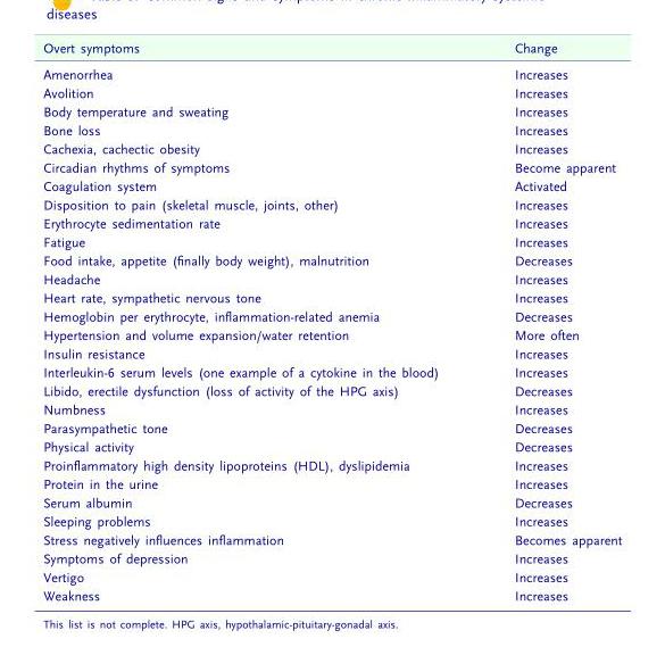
<table><thead><tr><td>Overt symptoms</td><td>Change</td></tr></thead><tbody><tr><td>Amenorrhea</td><td>Increases</td></tr><tr><td>Avolition</td><td>Increases</td></tr><tr><td>Body temperature and sweating</td><td>Increases</td></tr><tr><td>Bone loss</td><td>Increases</td></tr><tr><td>Cachexia, cachectic obesity</td><td>Increases</td></tr><tr><td>Circadian rhythms of symptoms</td><td>Become apparent</td></tr><tr><td>Coagulation system</td><td>Activated</td></tr><tr><td>Disposition to pain (skeletal muscle, joints, other)</td><td>Increases</td></tr><tr><td>Erythrocyte sedimentation rate</td><td>Increases</td></tr><tr><td>Fatigue</td><td>Increases</td></tr><tr><td>Food intake, appetite (finally body weight), malnutrition</td><td>Decreases</td></tr><tr><td>Headache</td><td>Increases</td></tr><tr><td>Heart rate, sympathetic nervous tone</td><td>Increases</td></tr><tr><td>Hemoglobin per erythrocyte, inflammation-related anemia</td><td>Decreases</td></tr><tr><td>Hypertension and volume expansion/water retention</td><td>More often</td></tr><tr><td>Insulin resistance</td><td>Increases</td></tr><tr><td>Interleukin-6 serum levels (one example of a cytokine in the blood)</td><td>Increases</td></tr><tr><td>Libido, erectile dysfunction (loss of activity of the HPG axis)</td><td>Decreases</td></tr><tr><td>Numbness</td><td>Increases</td></tr><tr><td>Parasympathetic tone</td><td>Decreases</td></tr><tr><td>Physical activity</td><td>Decreases</td></tr><tr><td>Proinflammatory high density lipoproteins (HDL), dyslipidemia</td><td>Increases</td></tr><tr><td>Protein in the urine</td><td>Increases</td></tr><tr><td>Serum albumin</td><td>Decreases</td></tr><tr><td>Sleeping problems</td><td>Increases</td></tr><tr><td>Stress negatively influences inflammation</td><td>Becomes apparent</td></tr><tr><td>Symptoms of depression</td><td>Increases</td></tr><tr><td>Vertigo</td><td>Increases</td></tr><tr><td>Weakness</td><td>Increases</td></tr></tbody></table>